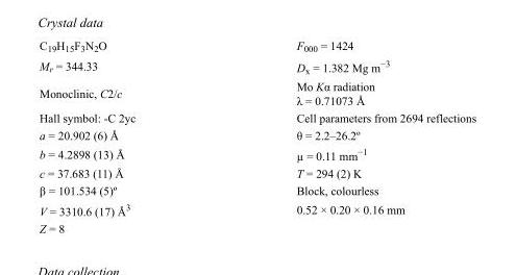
<table><tbody><tr><td>C<sub>19</sub>H<sub>15</sub>F<sub>3</sub>N<sub>2</sub>O</td><td>F<sub>000</sub> = 1424</td></tr><tr><td>M<sub>r</sub> = 344.33</td><td>D<sub>x</sub> = 1.382 Mg m<sup>−3</sup></td></tr><tr><td>Monoclinic, C2/c</td><td>Mo Kα radiation λ = 0.71073 Å</td></tr><tr><td>Hall symbol: -C 2yc</td><td>Cell parameters from 2694 reflections</td></tr><tr><td>a = 20.902 (6) Å</td><td>θ = 2.2–26.2º</td></tr><tr><td>b = 4.2898 (13) Å</td><td>µ = 0.11 mm<sup>−1</sup></td></tr><tr><td>c = 37.683 (11) Å</td><td>T = 294 (2) K</td></tr><tr><td>β = 101.534 (5)º</td><td>Block, colourless</td></tr><tr><td>V = 3310.6 (17) Å<sup>3</sup></td><td>0.52 × 0.20 × 0.16 mm</td></tr><tr><td>Z = 8</td><td></td></tr></tbody></table>